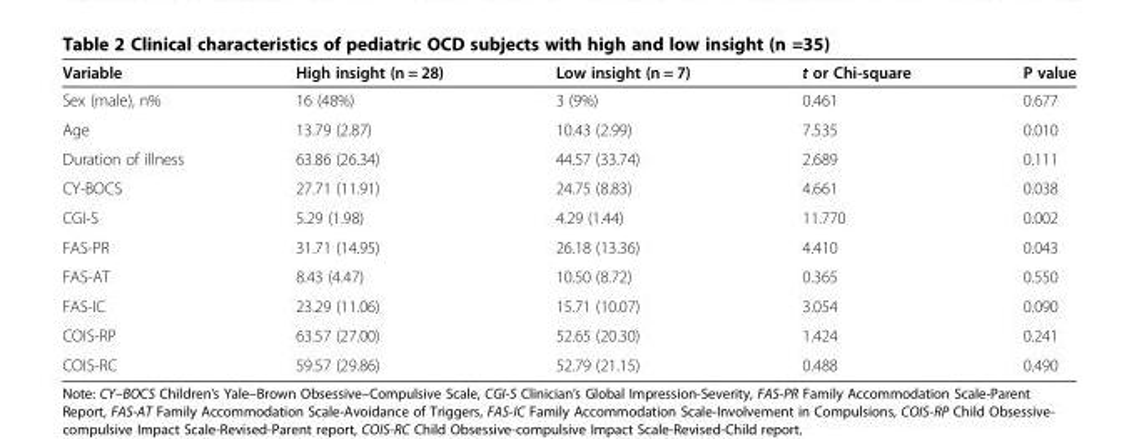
<table><thead><tr><td>Variable</td><td>High insight (n = 28)</td><td>Low insight (n = 7)</td><td>t or Chi-square</td><td>P value</td></tr></thead><tbody><tr><td>Sex (male), n%</td><td>16 (48%)</td><td>3 (9%)</td><td>0.461</td><td>0.677</td></tr><tr><td>Age</td><td>13.79 (2.87)</td><td>10.43 (2.99)</td><td>7.535</td><td>0.010</td></tr><tr><td>Duration of illness</td><td>63.86 (26.34)</td><td>44.57 (33.74)</td><td>2.689</td><td>0.111</td></tr><tr><td>CY-BOCS</td><td>27.71 (11.91)</td><td>24.75 (8.83)</td><td>4.661</td><td>0.038</td></tr><tr><td>CGI-S</td><td>5.29 (1.98)</td><td>4.29 (1.44)</td><td>11.770</td><td>0.002</td></tr><tr><td>FAS-PR</td><td>31.71 (14.95)</td><td>26.18 (13.36)</td><td>4.410</td><td>0.043</td></tr><tr><td>FAS-AT</td><td>8.43 (4.47)</td><td>10.50 (8.72)</td><td>0.365</td><td>0.550</td></tr><tr><td>FAS-IC</td><td>23.29 (11.06)</td><td>15.71 (10.07)</td><td>3.054</td><td>0.090</td></tr><tr><td>COIS-RP</td><td>63.57 (27.00)</td><td>52.65 (20.30)</td><td>1.424</td><td>0.241</td></tr><tr><td>COIS-RC</td><td>59.57 (29.86)</td><td>52.79 (21.15)</td><td>0.488</td><td>0.490</td></tr></tbody></table>